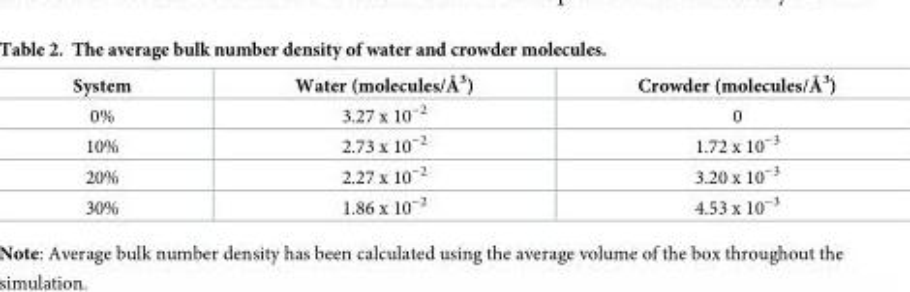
<table><thead><tr><td>System</td><td>Water (molecules/Å<sup>3</sup>)</td><td>Crowder (molecules/Å<sup>3</sup>)</td></tr></thead><tbody><tr><td>0%</td><td>3.27 x 10<sup>−2</sup></td><td>0</td></tr><tr><td>10%</td><td>2.73 x 10<sup>−2</sup></td><td>1.72 x 10<sup>−3</sup></td></tr><tr><td>20%</td><td>2.27 x 10<sup>−2</sup></td><td>3.20 x 10<sup>−3</sup></td></tr><tr><td>30%</td><td>1.86 x 10<sup>−2</sup></td><td>4.53 x 10<sup>−3</sup></td></tr></tbody></table>